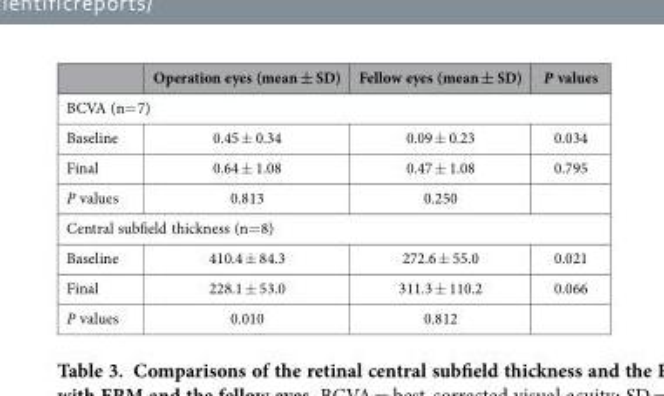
<table><thead><tr><td></td><td>Operation eyes (mean ± SD)</td><td>Fellow eyes (mean ± SD)</td><td>P values</td></tr></thead><tbody><tr><td colspan="4">BCVA (n= 7)</td></tr><tr><td>Baseline</td><td>0.45 ± 0.34</td><td>0.09 ± 0.23</td><td>0.034</td></tr><tr><td>Final</td><td>0.64 ± 1.08</td><td>0.47 ± 1.08</td><td>0.795</td></tr><tr><td>P values</td><td>0.813</td><td>0.250</td><td></td></tr><tr><td colspan="4">Central subfield thickness (n= 8)</td></tr><tr><td>Baseline</td><td>410.4 ± 84.3</td><td>272.6 ± 55.0</td><td>0.021</td></tr><tr><td>Final</td><td>228.1 ± 53.0</td><td>311.3 ± 110.2</td><td>0.066</td></tr><tr><td>P values</td><td>0.010</td><td>0.812</td><td></td></tr></tbody></table>